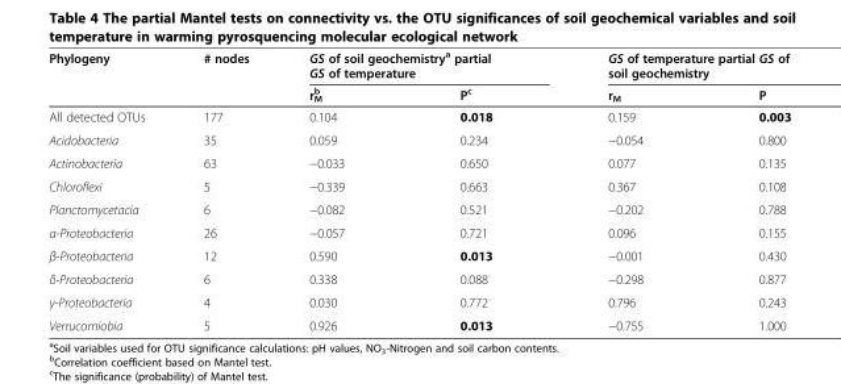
<table><thead><tr><td rowspan="2">Phylogeny</td><td rowspan="2"># nodes</td><td colspan="2">GS of soil geochemistry<sup>a</sup> partial GS of temperature</td><td colspan="2">GS of temperature partial GS of soil geochemistry</td></tr><tr><td>r<sub>M</sub> <sup>b</sup></td><td>P<sup>c</sup></td><td>r<sub>M</sub></td><td>P</td></tr></thead><tbody><tr><td>All detected OTUs</td><td>177</td><td>0.104</td><td>0.018</td><td>0.159</td><td>0.003</td></tr><tr><td>Acidobacteria</td><td>35</td><td>0.059</td><td>0.234</td><td>−0.054</td><td>0.800</td></tr><tr><td>Actinobacteria</td><td>63</td><td>−0.033</td><td>0.650</td><td>0.077</td><td>0.135</td></tr><tr><td>Chloroflexi</td><td>5</td><td>−0.339</td><td>0.663</td><td>0.367</td><td>0.108</td></tr><tr><td>Planctomycetacia</td><td>6</td><td>−0.082</td><td>0.521</td><td>−0.202</td><td>0.788</td></tr><tr><td>α-Proteobacteria</td><td>26</td><td>−0.057</td><td>0.721</td><td>0.096</td><td>0.155</td></tr><tr><td>β-Proteobacteria</td><td>12</td><td>0.590</td><td>0.013</td><td>−0.001</td><td>0.430</td></tr><tr><td>δ-Proteobacteria</td><td>6</td><td>0.338</td><td>0.088</td><td>−0.298</td><td>0.877</td></tr><tr><td>γ-Proteobacteria</td><td>4</td><td>0.030</td><td>0.772</td><td>0.796</td><td>0.243</td></tr><tr><td>Verrucomiobia</td><td>5</td><td>0.926</td><td>0.013</td><td>−0.755</td><td>1.000</td></tr></tbody></table>